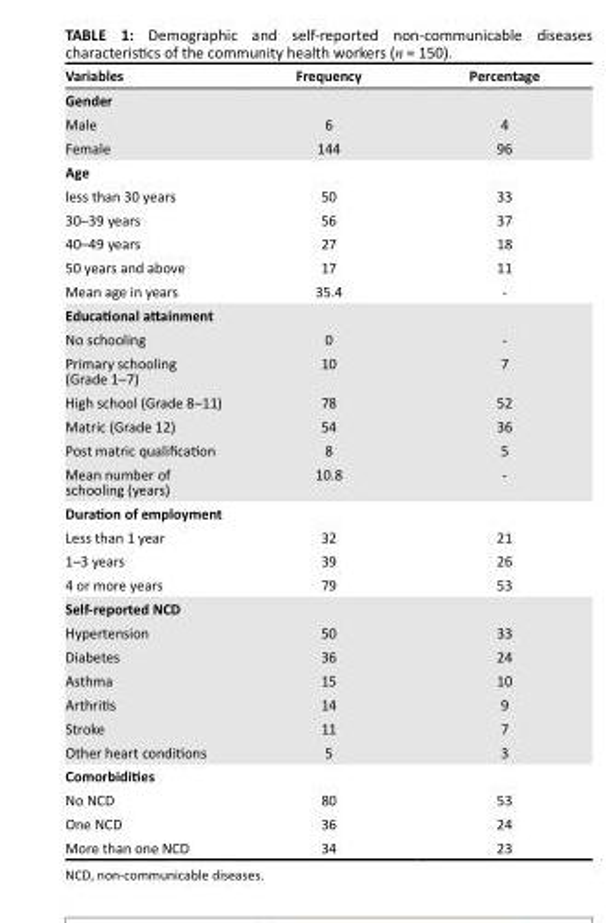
<table><thead><tr><td>Variables</td><td>Frequency</td><td>Percentage</td></tr></thead><tbody><tr><td colspan="3">Gender</td></tr><tr><td>Male</td><td>6</td><td>4</td></tr><tr><td>Female</td><td>144</td><td>96</td></tr><tr><td colspan="3">Age</td></tr><tr><td>less than 30 years</td><td>50</td><td>33</td></tr><tr><td>30–39 years</td><td>56</td><td>37</td></tr><tr><td>40–49 years</td><td>27</td><td>18</td></tr><tr><td>50 years and above</td><td>17</td><td>11</td></tr><tr><td>Mean age in years</td><td>35.4</td><td>-</td></tr><tr><td colspan="3">Educational attainment</td></tr><tr><td>No schooling</td><td>0</td><td>-</td></tr><tr><td>Primary schooling (Grade 1–7)</td><td>10</td><td>7</td></tr><tr><td>High school (Grade 8–11)</td><td>78</td><td>52</td></tr><tr><td>Matric (Grade 12)</td><td>54</td><td>36</td></tr><tr><td>Post matric qualification</td><td>8</td><td>5</td></tr><tr><td>Mean number of schooling (years)</td><td>10.8</td><td>-</td></tr><tr><td colspan="3">Duration of employment</td></tr><tr><td>Less than 1 year</td><td>32</td><td>21</td></tr><tr><td>1–3 years</td><td>39</td><td>26</td></tr><tr><td>4 or more years</td><td>79</td><td>53</td></tr><tr><td colspan="3">Self-reported NCD</td></tr><tr><td>Hypertension</td><td>50</td><td>33</td></tr><tr><td>Diabetes</td><td>36</td><td>24</td></tr><tr><td>Asthma</td><td>15</td><td>10</td></tr><tr><td>Arthritis</td><td>14</td><td>9</td></tr><tr><td>Stroke</td><td>11</td><td>7</td></tr><tr><td>Other heart conditions</td><td>5</td><td>3</td></tr><tr><td colspan="3">Comorbidities</td></tr><tr><td>No NCD</td><td>80</td><td>53</td></tr><tr><td>One NCD</td><td>36</td><td>24</td></tr><tr><td>More than one NCD</td><td>34</td><td>23</td></tr></tbody></table>